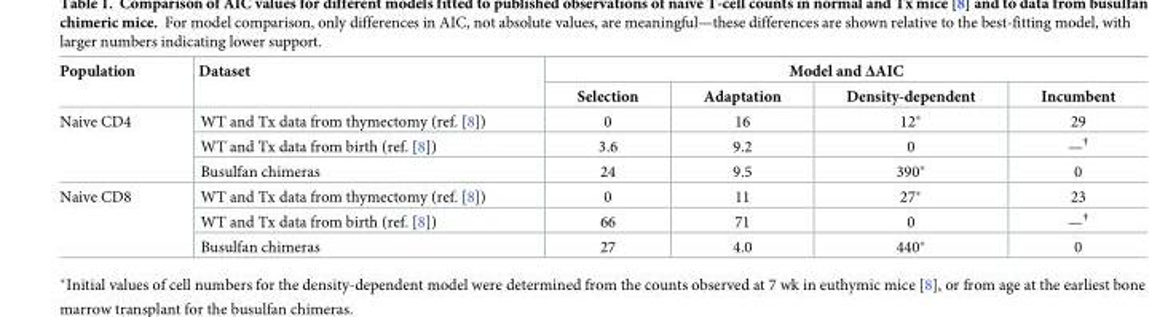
<table><thead><tr><td rowspan="2">Population</td><td rowspan="2">Dataset</td><td colspan="4">Model and ΔAIC</td></tr><tr><td>Selection</td><td>Adaptation</td><td>Density-dependent</td><td>Incumbent</td></tr></thead><tbody><tr><td rowspan="3">Naive CD4</td><td>WT and Tx data from thymectomy (ref. [8])</td><td>0</td><td>16</td><td>12*</td><td>29</td></tr><tr><td>WT and Tx data from birth (ref. [8])</td><td>3.6</td><td>9.2</td><td>0</td><td>—<sup>†</sup></td></tr><tr><td>Busulfan chimeras</td><td>24</td><td>9.5</td><td>390*</td><td>0</td></tr><tr><td rowspan="3">Naive CD8</td><td>WT and Tx data from thymectomy (ref. [8])</td><td>0</td><td>11</td><td>27*</td><td>23</td></tr><tr><td>WT and Tx data from birth (ref. [8])</td><td>66</td><td>71</td><td>0</td><td>—<sup>†</sup></td></tr><tr><td>Busulfan chimeras</td><td>27</td><td>4.0</td><td>440*</td><td>0</td></tr></tbody></table>